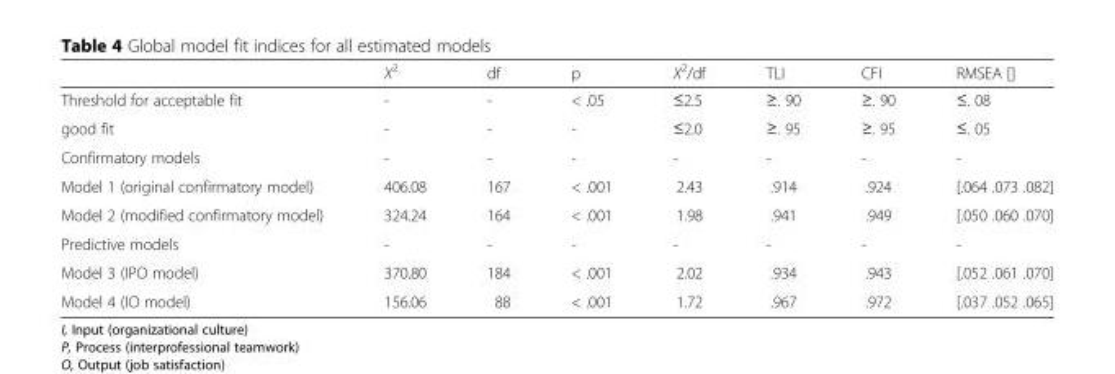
<table><thead><tr><td></td><td>X<sup>2</sup></td><td>df</td><td>p</td><td>X<sup>2</sup>/df</td><td>TLI</td><td>CFI</td><td>RMSEA []</td></tr></thead><tbody><tr><td>Threshold for acceptable fit</td><td>-</td><td>-</td><td>&lt; .05</td><td>≤2.5</td><td>≥. 90</td><td>≥. 90</td><td>≤. 08</td></tr><tr><td>good fit</td><td>-</td><td>-</td><td>-</td><td>≤2.0</td><td>≥. 95</td><td>≥. 95</td><td>≤. 05</td></tr><tr><td>Confirmatory models</td><td>-</td><td>-</td><td>-</td><td>-</td><td>-</td><td>-</td><td>-</td></tr><tr><td>Model 1 (original confirmatory model)</td><td>406.08</td><td>167</td><td>&lt; .001</td><td>2.43</td><td>.914</td><td>.924</td><td>[.064 .073 .082]</td></tr><tr><td>Model 2 (modified confirmatory model)</td><td>324.24</td><td>164</td><td>&lt; .001</td><td>1.98</td><td>.941</td><td>.949</td><td>[.050 .060 .070]</td></tr><tr><td>Predictive models</td><td>-</td><td>-</td><td>-</td><td>-</td><td>-</td><td>-</td><td>-</td></tr><tr><td>Model 3 (IPO model)</td><td>370.80</td><td>184</td><td>&lt; .001</td><td>2.02</td><td>.934</td><td>.943</td><td>[.052 .061 .070]</td></tr><tr><td>Model 4 (IO model)</td><td>156.06</td><td>88</td><td>&lt; .001</td><td>1.72</td><td>.967</td><td>.972</td><td>[.037 .052 .065]</td></tr></tbody></table>